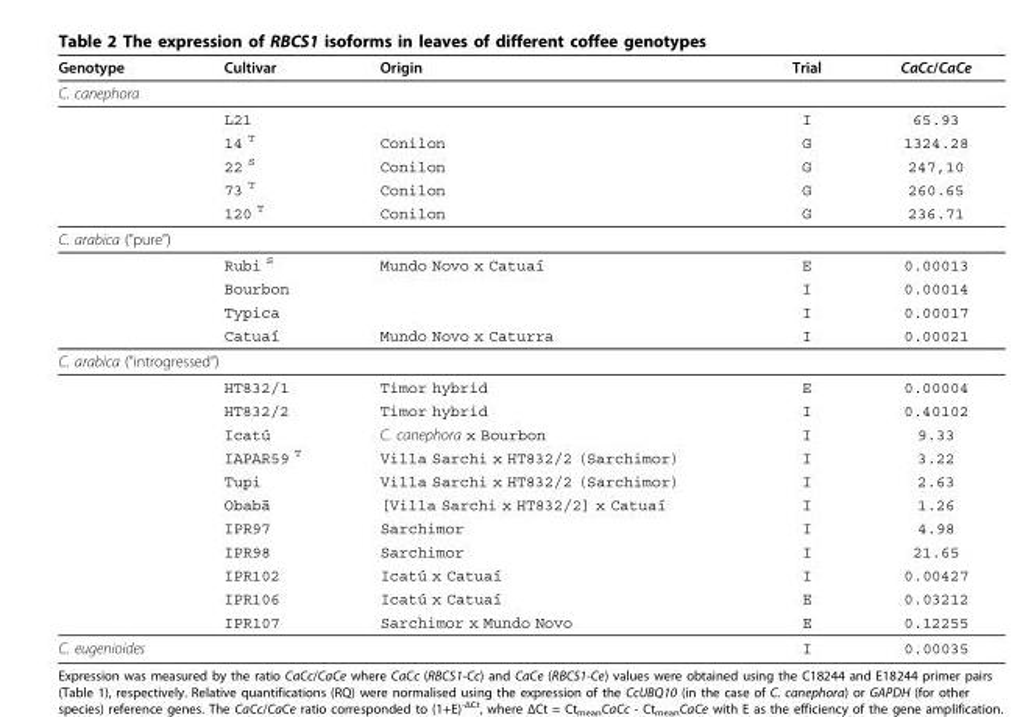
<table><thead><tr><td>Genotype</td><td>Cultivar</td><td>Origin</td><td>Trial</td><td>CaCc/CaCe</td></tr></thead><tbody><tr><td colspan="5">C. canephora</td></tr><tr><td></td><td>L21</td><td></td><td>I</td><td>65.93</td></tr><tr><td></td><td>14 T</td><td>Conilon</td><td>G</td><td>1324.28</td></tr><tr><td></td><td>22 S</td><td>Conilon</td><td>G</td><td>247,10</td></tr><tr><td></td><td>73 T</td><td>Conilon</td><td>G</td><td>260.65</td></tr><tr><td></td><td>120 T</td><td>Conilon</td><td>G</td><td>236.71</td></tr><tr><td colspan="5">C. arabica (&quot;pure”)</td></tr><tr><td></td><td>Rubi S</td><td>Mundo Novo x Catuaí</td><td>E</td><td>0.00013</td></tr><tr><td></td><td>Bourbon</td><td></td><td>I</td><td>0.00014</td></tr><tr><td></td><td>Typica</td><td></td><td>I</td><td>0.00017</td></tr><tr><td></td><td>Catuaí</td><td>Mundo Novo x Caturra</td><td>I</td><td>0.00021</td></tr><tr><td colspan="5">C. arabica (&quot;introgressed”)</td></tr><tr><td></td><td>HT832/1</td><td>Timor hybrid</td><td>E</td><td>0.00004</td></tr><tr><td></td><td>HT832/2</td><td>Timor hybrid</td><td>I</td><td>0.40102</td></tr><tr><td></td><td>Icatú</td><td>C. canephora x Bourbon</td><td>I</td><td>9.33</td></tr><tr><td></td><td>IAPAR59 <sup>T</sup></td><td>Villa Sarchi x HT832/2 (Sarchimor)</td><td>I</td><td>3.22</td></tr><tr><td></td><td>Tupi</td><td>Villa Sarchi x HT832/2 (Sarchimor)</td><td>I</td><td>2.63</td></tr><tr><td></td><td>Obabã</td><td>[Villa Sarchi x HT832/2] x Catuaí</td><td>I</td><td>1.26</td></tr><tr><td></td><td>IPR97</td><td>Sarchimor</td><td>I</td><td>4.98</td></tr><tr><td></td><td>IPR98</td><td>Sarchimor</td><td>I</td><td>21.65</td></tr><tr><td></td><td>IPR102</td><td>Icatú x Catuaí</td><td>I</td><td>0.00427</td></tr><tr><td></td><td>IPR106</td><td>Icatú x Catuaí</td><td>E</td><td>0.03212</td></tr><tr><td></td><td>IPR107</td><td>Sarchimor x Mundo Novo</td><td>E</td><td>0.12255</td></tr><tr><td>C. eugenioides</td><td></td><td></td><td>I</td><td>0.00035</td></tr></tbody></table>